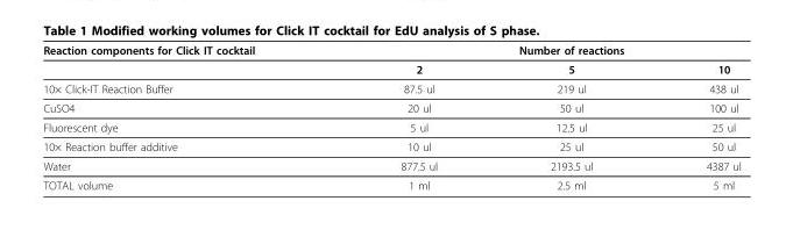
<table><thead><tr><td>Reaction components for Click IT cocktail</td><td></td><td>Number of reactions</td><td></td></tr></thead><tbody><tr><td></td><td>2</td><td>5</td><td>10</td></tr><tr><td>10× Click-IT Reaction Buffer</td><td>87.5 ul</td><td>219 ul</td><td>438 ul</td></tr><tr><td>CuSO4</td><td>20 ul</td><td>50 ul</td><td>100 ul</td></tr><tr><td>Fluorescent dye</td><td>5 ul</td><td>12.5 ul</td><td>25 ul</td></tr><tr><td>10× Reaction buffer additive</td><td>10 ul</td><td>25 ul</td><td>50 ul</td></tr><tr><td>Water</td><td>877.5 ul</td><td>2193.5 ul</td><td>4387 ul</td></tr><tr><td>TOTAL volume</td><td>1 ml</td><td>2.5 ml</td><td>5 ml</td></tr></tbody></table>